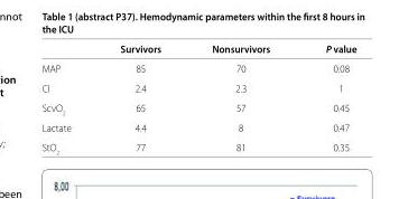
<table><thead><tr><td></td><td>Survivors</td><td>Nonsurvivors</td><td>P value</td></tr></thead><tbody><tr><td>MAP</td><td>85</td><td>70</td><td>0.08</td></tr><tr><td>CI</td><td>2.4</td><td>2.3</td><td>1</td></tr><tr><td>ScvO<sub>2</sub></td><td>65</td><td>57</td><td>0.45</td></tr><tr><td>Lactate</td><td>4.4</td><td>8</td><td>0.47</td></tr><tr><td>StO<sub>2</sub></td><td>77</td><td>81</td><td>0.35</td></tr></tbody></table>